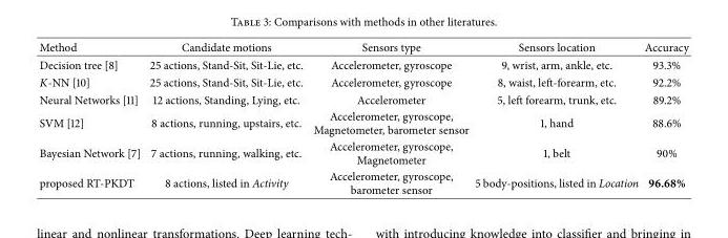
<table><thead><tr><td>Method</td><td>Candidate motions</td><td>Sensors type</td><td>Sensors location</td><td>Accuracy</td></tr></thead><tbody><tr><td>Decision tree [8]</td><td>25 actions, Stand-Sit, Sit-Lie, etc.</td><td>Accelerometer, gyroscope</td><td>9, wrist, arm, ankle, etc.</td><td>93.3%</td></tr><tr><td>K-NN [10]</td><td>25 actions, Stand-Sit, Sit-Lie, etc.</td><td>Accelerometer, gyroscope</td><td>8, waist, left-forearm, etc.</td><td>92.2%</td></tr><tr><td>Neural Networks [11]</td><td>12 actions, Standing, Lying, etc.</td><td>Accelerometer</td><td>5, left forearm, trunk, etc.</td><td>89.2%</td></tr><tr><td>SVM [12]</td><td>8 actions, running, upstairs, etc.</td><td>Accelerometer, gyroscope, Magnetometer, barometer sensor</td><td>1, hand</td><td>88.6%</td></tr><tr><td>Bayesian Network [7]</td><td>7 actions, running, walking, etc.</td><td>Accelerometer, gyroscope, Magnetometer</td><td>1, belt</td><td>90%</td></tr><tr><td>proposed RT-PKDT</td><td>8 actions, listed in Activity</td><td>Accelerometer, gyroscope, barometer sensor</td><td>5 body-positions, listed in Location</td><td>96.68%</td></tr></tbody></table>